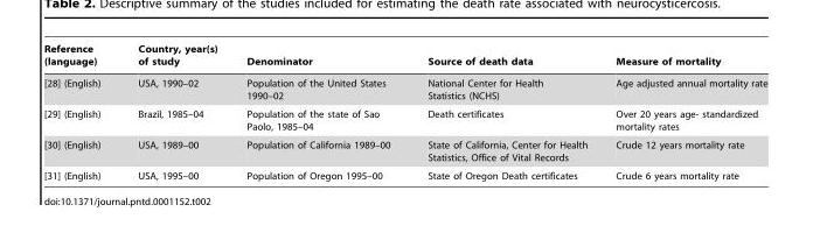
<table><thead><tr><td>Reference (language)</td><td>Country, year(s) of study</td><td>Denominator</td><td>Source of death data</td><td>Measure of mortality</td></tr></thead><tbody><tr><td>[28] (English)</td><td>USA, 1990–02</td><td>Population of the United States 1990–02</td><td>National Center for Health Statistics (NCHS)</td><td>Age adjusted annual mortality rate</td></tr><tr><td>[29] (English)</td><td>Brazil, 1985–04</td><td>Population of the state of Sao Paolo, 1985–04</td><td>Death certificates</td><td>Over 20 years age- standardized mortality rates</td></tr><tr><td>[30] (English)</td><td>USA, 1989–00</td><td>Population of California 1989–00</td><td>State of California, Center for Health Statistics, Office of Vital Records</td><td>Crude 12 years mortality rate</td></tr><tr><td>[31] (English)</td><td>USA, 1995–00</td><td>Population of Oregon 1995–00</td><td>State of Oregon Death certificates</td><td>Crude 6 years mortality rate</td></tr></tbody></table>